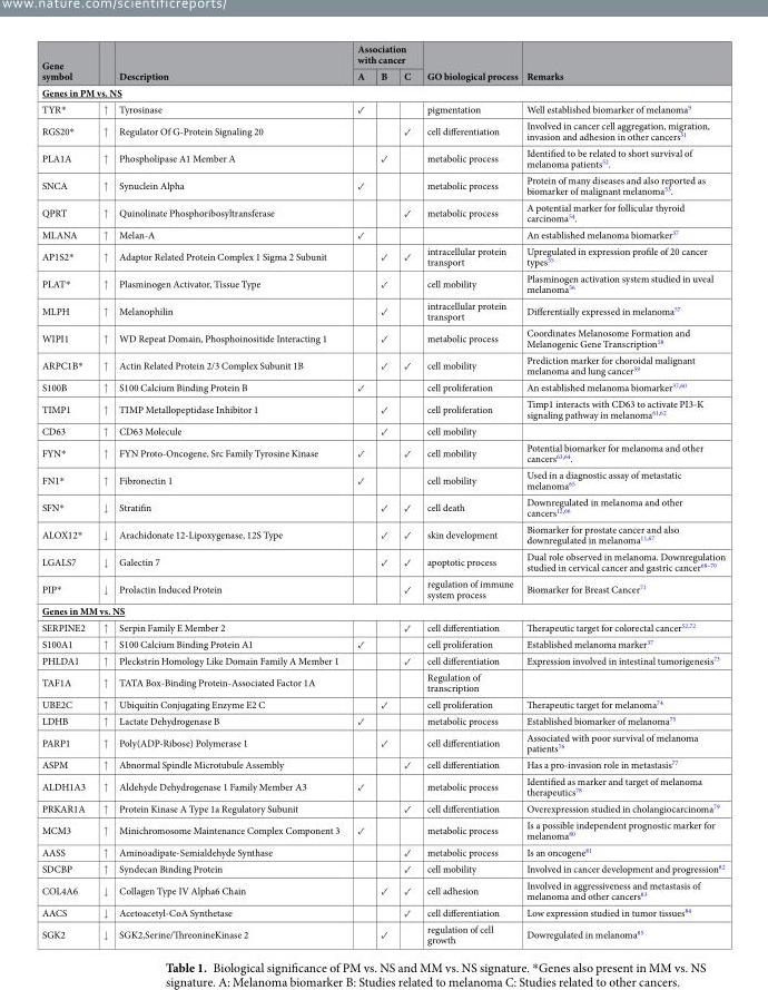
<table><thead><tr><td rowspan="2">Gene symbol</td><td rowspan="2"></td><td rowspan="2">Description</td><td colspan="3">Association with cancer</td><td rowspan="2">GO biological process</td><td rowspan="2">Remarks</td></tr><tr><td>A</td><td>B</td><td>C</td></tr></thead><tbody><tr><td colspan="8">Genes in PM vs. NS</td></tr><tr><td>TYR*</td><td>↑</td><td>Tyrosinase</td><td>✓</td><td></td><td></td><td>pigmentation</td><td>Well established biomarker of melanoma<sup>9</sup></td></tr><tr><td>RGS20*</td><td>↑</td><td>Regulator Of G-Protein Signaling 20</td><td></td><td></td><td>✓</td><td>cell differentiation</td><td>Involved in cancer cell aggregation, migration, invasion and adhesion in other cancers<sup>51</sup></td></tr><tr><td>PLA1A</td><td>↑</td><td>Phospholipase A1 Member A</td><td></td><td>✓</td><td></td><td>metabolic process</td><td>Identified to be related to short survival of melanoma patients<sup>52</sup>.</td></tr><tr><td>SNCA</td><td>↑</td><td>Synuclein Alpha</td><td>✓</td><td></td><td></td><td>metabolic process</td><td>Protein of many diseases and also reported as biomarker of malignant melanoma<sup>53</sup>.</td></tr><tr><td>QPRT</td><td>↑</td><td>Quinolinate Phosphoribosyltransferase</td><td></td><td></td><td>✓</td><td>metabolic process</td><td>A potential marker for follicular thyroid carcinoma<sup>54</sup>.</td></tr><tr><td>MLANA</td><td>↑</td><td>Melan-A</td><td>✓</td><td></td><td></td><td></td><td>An established melanoma biomarker<sup>37</sup></td></tr><tr><td>AP1S2*</td><td>↑</td><td>Adaptor Related Protein Complex 1 Sigma 2 Subunit</td><td></td><td>✓</td><td>✓</td><td>intracellular protein transport</td><td>Upregulated in expression profile of 20 cancer types<sup>55</sup></td></tr><tr><td>PLAT*</td><td>↑</td><td>Plasminogen Activator, Tissue Type</td><td></td><td>✓</td><td></td><td>cell mobility</td><td>Plasminogen activation system studied in uveal melanoma<sup>56</sup></td></tr><tr><td>MLPH</td><td>↑</td><td>Melanophilin</td><td></td><td>✓</td><td></td><td>intracellular protein transport</td><td>Differentially expressed in melanoma<sup>57</sup></td></tr><tr><td>WIPI1</td><td>↑</td><td>WD Repeat Domain, Phosphoinositide Interacting 1</td><td></td><td>✓</td><td></td><td>metabolic process</td><td>Coordinates Melanosome Formation and Melanogenic Gene Transcription<sup>58</sup></td></tr><tr><td>ARPC1B*</td><td>↑</td><td>Actin Related Protein 2/3 Complex Subunit 1B</td><td></td><td>✓</td><td>✓</td><td>cell mobility</td><td>Prediction marker for choroidal malignant melanoma and lung cancer<sup>59</sup></td></tr><tr><td>S100B</td><td>↑</td><td>S100 Calcium Binding Protein B</td><td>✓</td><td></td><td></td><td>cell proliferation</td><td>An established melanoma biomarker<sup>37,60</sup></td></tr><tr><td>TIMP1</td><td>↑</td><td>TIMP Metallopeptidase Inhibitor 1</td><td></td><td>✓</td><td></td><td>cell proliferation</td><td>Timp1 interacts with CD63 to activate PI3-K signaling pathway in melanoma<sup>61,62</sup></td></tr><tr><td>CD63</td><td>↑</td><td>CD63 Molecule</td><td></td><td>✓</td><td></td><td>cell mobility</td><td></td></tr><tr><td>FYN*</td><td>↑</td><td>FYN Proto-Oncogene, Src Family Tyrosine Kinase</td><td>✓</td><td></td><td>✓</td><td>cell mobility</td><td>Potential biomarker for melanoma and other cancers<sup>63,64</sup>.</td></tr><tr><td>FN1*</td><td>↑</td><td>Fibronectin 1</td><td>✓</td><td></td><td></td><td>cell mobility</td><td>Used in a diagnostic assay of metastatic melanoma<sup>65</sup></td></tr><tr><td>SFN*</td><td>↓</td><td>Stratifin</td><td></td><td>✓</td><td>✓</td><td>cell death</td><td>Downregulated in melanoma and other cancers<sup>12,66</sup></td></tr><tr><td>ALOX12*</td><td>↓</td><td>Arachidonate 12-Lipoxygenase, 12S Type</td><td></td><td>✓</td><td>✓</td><td>skin development</td><td>Biomarker for prostate cancer and also downregulated in melanoma<sup>11,67</sup></td></tr><tr><td>LGALS7</td><td>↓</td><td>Galectin 7</td><td></td><td>✓</td><td>✓</td><td>apoptotic process</td><td>Dual role observed in melanoma. Downregulation studied in cervical cancer and gastric cancer<sup>68–70</sup></td></tr><tr><td>PIP*</td><td>↓</td><td>Prolactin Induced Protein</td><td></td><td></td><td>✓</td><td>regulation of immune system process</td><td>Biomarker for Breast Cancer<sup>71</sup></td></tr><tr><td colspan="8">Genes in MM vs. NS</td></tr><tr><td>SERPINE2</td><td>↑</td><td>Serpin Family E Member 2</td><td></td><td></td><td>✓</td><td>cell differentiation</td><td>Therapeutic target for colorectal cancer<sup>52,72</sup></td></tr><tr><td>S100A1</td><td>↑</td><td>S100 Calcium Binding Protein A1</td><td>✓</td><td></td><td></td><td>cell proliferation</td><td>Established melanoma marker<sup>37</sup></td></tr><tr><td>PHLDA1</td><td>↑</td><td>Pleckstrin Homology Like Domain Family A Member 1</td><td></td><td></td><td>✓</td><td>cell differentiation</td><td>Expression involved in intestinal tumorigenesis<sup>73</sup></td></tr><tr><td>TAF1A</td><td>↑</td><td>TATA Box-Binding Protein-Associated Factor 1A</td><td></td><td></td><td></td><td>Regulation of transcription</td><td></td></tr><tr><td>UBE2C</td><td>↑</td><td>Ubiquitin Conjugating Enzyme E2 C</td><td></td><td>✓</td><td></td><td>cell proliferation</td><td>Therapeutic target for melanoma<sup>74</sup></td></tr><tr><td>LDHB</td><td>↑</td><td>Lactate Dehydrogenase B</td><td>✓</td><td></td><td></td><td>metabolic process</td><td>Established biomarker of melanoma<sup>75</sup></td></tr><tr><td>PARP1</td><td>↑</td><td>Poly(ADP-Ribose) Polymerase 1</td><td></td><td>✓</td><td></td><td>cell differentiation</td><td>Associated with poor survival of melanoma patients<sup>76</sup></td></tr><tr><td>ASPM</td><td>↑</td><td>Abnormal Spindle Microtubule Assembly</td><td></td><td></td><td>✓</td><td>cell differentiation</td><td>Has a pro-invasion role in metastasis<sup>77</sup></td></tr><tr><td>ALDH1A3</td><td>↑</td><td>Aldehyde Dehydrogenase 1 Family Member A3</td><td>✓</td><td></td><td></td><td>metabolic process</td><td>Identified as marker and target of melanoma therapeutics<sup>78</sup></td></tr><tr><td>PRKAR1A</td><td>↑</td><td>Protein Kinase A Type 1a Regulatory Subunit</td><td></td><td></td><td>✓</td><td>cell differentiation</td><td>Overexpression studied in cholangiocarcinoma<sup>79</sup></td></tr><tr><td>MCM3</td><td>↑</td><td>Minichromosome Maintenance Complex Component 3</td><td>✓</td><td></td><td></td><td>metabolic process</td><td>Is a possible independent prognostic marker for melanoma<sup>80</sup></td></tr><tr><td>AASS</td><td>↑</td><td>Aminoadipate-Semialdehyde Synthase</td><td></td><td></td><td>✓</td><td>metabolic process</td><td>Is an oncogene<sup>81</sup></td></tr><tr><td>SDCBP</td><td>↑</td><td>Syndecan Binding Protein</td><td></td><td></td><td>✓</td><td>cell mobility</td><td>Involved in cancer development and progression<sup>82</sup></td></tr><tr><td>COL4A6</td><td>↓</td><td>Collagen Type IV Alpha6 Chain</td><td></td><td>✓</td><td>✓</td><td>cell adhesion</td><td>Involved in aggressiveness and metastasis of melanoma and other cancers<sup>83</sup></td></tr><tr><td>AACS</td><td>↓</td><td>Acetoacetyl-CoA Synthetase</td><td></td><td></td><td>✓</td><td>cell differentiation</td><td>Low expression studied in tumor tissues<sup>84</sup></td></tr><tr><td>SGK2</td><td>↓</td><td>SGK2,Serine/ThreonineKinase 2</td><td></td><td>✓</td><td></td><td>regulation of cell growth</td><td>Dowregulated in melanoma<sup>85</sup></td></tr></tbody></table>